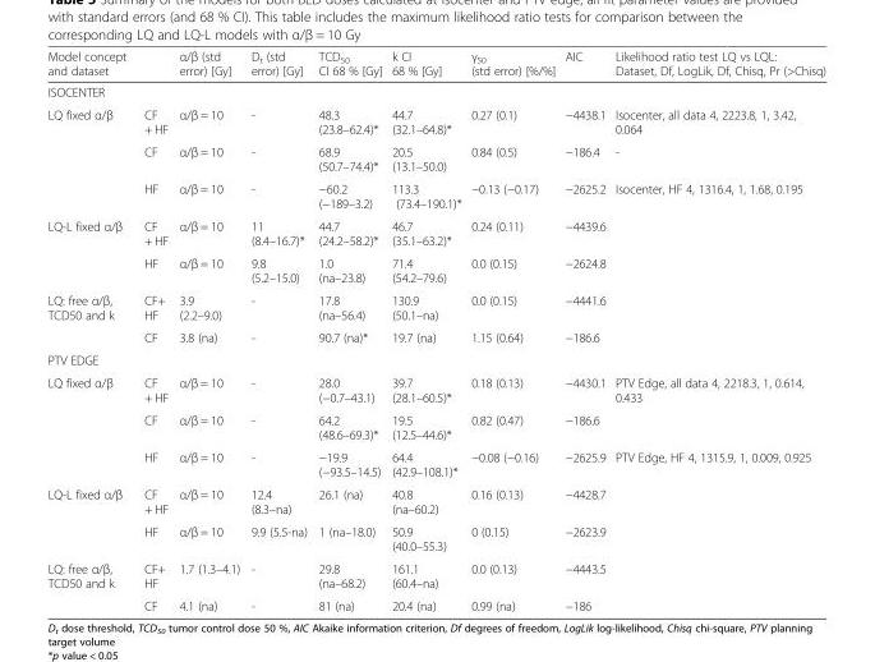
<table><thead><tr><td colspan="2">Model concept and dataset</td><td>α/β (std error) [Gy]</td><td>D<sub>t</sub> (std error) [Gy]</td><td>TCD<sub>50</sub> CI 68 % [Gy]</td><td>k CI 68 % [Gy]</td><td>γ<sub>50</sub> (std error) [%/%]</td><td>AIC</td><td>Likelihood ratio test LQ vs LQL: Dataset, Df, LogLik, Df, Chisq, Pr (&gt;Chisq)</td></tr><tr><td colspan="9">ISOCENTER</td></tr><tr><td>LQ fixed α/β</td><td>CF + HF</td><td>α/β = 10</td><td>-</td><td>48.3 (23.8–62.4)*</td><td>44.7 (32.1–64.8)*</td><td>0.27 (0.1)</td><td>−4438.1</td><td>Isocenter, all data 4, 2223.8, 1, 3.42, 0.064</td></tr></thead><tbody><tr><td></td><td>CF</td><td>α/β = 10</td><td>-</td><td>68.9 (50.7–74.4)*</td><td>20.5 (13.1–50.0)</td><td>0.84 (0.5)</td><td>−186.4</td><td>-</td></tr><tr><td></td><td>HF</td><td>α/β = 10</td><td>-</td><td>−60.2 (−189–3.2)</td><td>113.3 (73.4–190.1)*</td><td>−0.13 (−0.17)</td><td>−2625.2</td><td>Isocenter, HF 4, 1316.4, 1, 1.68, 0.195</td></tr><tr><td rowspan="2">LQ-L fixed α/β</td><td>CF + HF</td><td>α/β = 10</td><td>11 (8.4–16.7)*</td><td>44.7 (24.2–58.2)*</td><td>46.7 (35.1–63.2)*</td><td>0.24 (0.11)</td><td>−4439.6</td><td></td></tr><tr><td>HF</td><td>α/β = 10</td><td>9.8 (5.2–15.0)</td><td>1.0 (na–23.8)</td><td>71.4 (54.2–79.6)</td><td>0.0 (0.15)</td><td>−2624.8</td><td></td></tr><tr><td rowspan="2">LQ: free α/β, TCD50 and k</td><td>CF+ HF</td><td>3.9 (2.2–9.0)</td><td>-</td><td>17.8 (na–56.4)</td><td>130.9 (50.1–na)</td><td>0.0 (0.15)</td><td>−4441.6</td><td></td></tr><tr><td>CF</td><td>3.8 (na)</td><td>-</td><td>90.7 (na)*</td><td>19.7 (na)</td><td>1.15 (0.64)</td><td>−186.6</td><td></td></tr><tr><td colspan="9">PTV EDGE</td></tr><tr><td rowspan="3">LQ fixed α/β</td><td>CF + HF</td><td>α/β = 10</td><td>-</td><td>28.0 (−0.7–43.1)</td><td>39.7 (28.1–60.5)*</td><td>0.18 (0.13)</td><td>−4430.1</td><td>PTV Edge, all data 4, 2218.3, 1, 0.614, 0.433</td></tr><tr><td>CF</td><td>α/β = 10</td><td>-</td><td>64.2 (48.6–69.3)*</td><td>19.5 (12.5–44.6)*</td><td>0.82 (0.47)</td><td>−186.6</td><td></td></tr><tr><td>HF</td><td>α/β = 10</td><td>-</td><td>−19.9 (−93.5–14.5)</td><td>64.4 (42.9–108.1)*</td><td>−0.08 (−0.16)</td><td>−2625.9</td><td>PTV Edge, HF 4, 1315.9, 1, 0.009, 0.925</td></tr><tr><td rowspan="2">LQ-L fixed α/β</td><td>CF + HF</td><td>α/β = 10</td><td>12.4 (8.3–na)</td><td>26.1 (na)</td><td>40.8 (na–60.2)</td><td>0.16 (0.13)</td><td>−4428.7</td><td></td></tr><tr><td>HF</td><td>α/β = 10</td><td>9.9 (5.5-na)</td><td>1 (na–18.0)</td><td>50.9 (40.0–55.3)</td><td>0 (0.15)</td><td>−2623.9</td><td></td></tr><tr><td rowspan="2">LQ: free α/β, TCD50 and k</td><td>CF+ HF</td><td>1.7 (1.3–4.1)</td><td>-</td><td>29.8 (na–68.2)</td><td>161.1 (60.4–na)</td><td>0.0 (0.13)</td><td>−4443.5</td><td></td></tr><tr><td>CF</td><td>4.1 (na)</td><td>-</td><td>81 (na)</td><td>20.4 (na)</td><td>0.99 (na)</td><td>−186</td><td></td></tr></tbody></table>